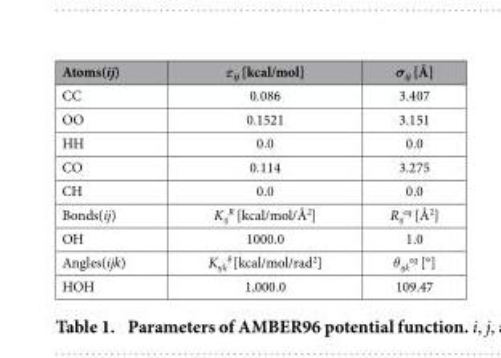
<table><thead><tr><td>Atoms(ij)</td><td>ε<sub>ij</sub> [kcal/mol]</td><td>σ<sub>ij</sub> [Å]</td></tr></thead><tbody><tr><td>CC</td><td>0.086</td><td>3.407</td></tr><tr><td>OO</td><td>0.1521</td><td>3.151</td></tr><tr><td>HH</td><td>0.0</td><td>0.0</td></tr><tr><td>CO</td><td>0.114</td><td>3.275</td></tr><tr><td>CH</td><td>0.0</td><td>0.0</td></tr><tr><td>Bonds(ij)</td><td>K<sub>ij</sub> <sup>R</sup> [kcal/mol/Å<sup>2</sup>]</td><td>R<sub>ij</sub> <sup>eq</sup> [Å<sup>2</sup>]</td></tr><tr><td>OH</td><td>1000.0</td><td>1.0</td></tr><tr><td>Angles(ijk)</td><td>K<sub>ijk</sub> <sup>θ</sup> [kcal/mol/rad<sup>2</sup>]</td><td>θ<sub>ijk</sub> <sup>eq</sup> [°]</td></tr><tr><td>HOH</td><td>1,000.0</td><td>109.47</td></tr></tbody></table>